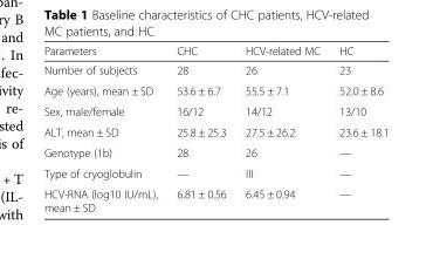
<table><thead><tr><td>Parameters</td><td>CHC</td><td>HCV-related MC</td><td>HC</td></tr></thead><tbody><tr><td>Number of subjects</td><td>28</td><td>26</td><td>23</td></tr><tr><td>Age (years), mean ± SD</td><td>53.6 ± 6.7</td><td>55.5 ± 7.1</td><td>52.0 ± 8.6</td></tr><tr><td>Sex, male/female</td><td>16/12</td><td>14/12</td><td>13/10</td></tr><tr><td>ALT, mean ± SD</td><td>25.8 ± 25.3</td><td>27.5 ± 26.2</td><td>23.6 ± 18.1</td></tr><tr><td>Genotype (1b)</td><td>28</td><td>26</td><td>—</td></tr><tr><td>Type of cryoglobulin</td><td>—</td><td>III</td><td>—</td></tr><tr><td>HCV-RNA (log10 IU/mL), mean ± SD</td><td>6.81 ± 0.56</td><td>6.45 ± 0.94</td><td>—</td></tr></tbody></table>